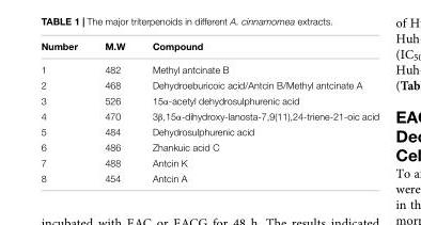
<table><thead><tr><td>Number</td><td>M.W</td><td>Compound</td></tr></thead><tbody><tr><td>1</td><td>482</td><td>Methyl antcinate B</td></tr><tr><td>2</td><td>468</td><td>Dehydroeburicoic acid/Antcin B/Methyl antcinate A</td></tr><tr><td>3</td><td>526</td><td>15α-acetyl dehydrosulphurenic acid</td></tr><tr><td>4</td><td>470</td><td>3β,15α-dihydroxy-lanosta-7,9(11),24-triene-21-oic acid</td></tr><tr><td>5</td><td>484</td><td>Dehydrosulphurenic acid</td></tr><tr><td>6</td><td>486</td><td>Zhankuic acid C</td></tr><tr><td>7</td><td>488</td><td>Antcin K</td></tr><tr><td>8</td><td>454</td><td>Antcin A</td></tr></tbody></table>